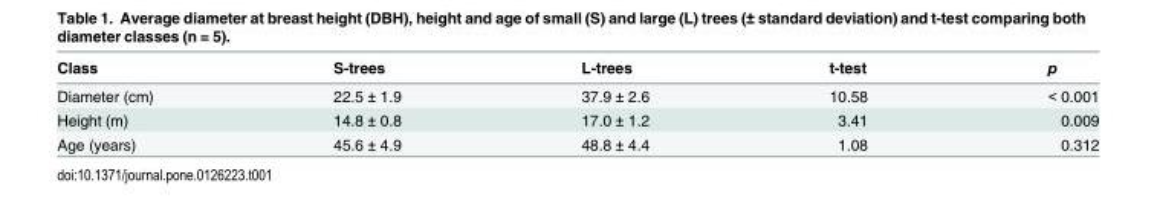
<table><thead><tr><td>Class</td><td>S-trees</td><td>L-trees</td><td>t-test</td><td>p</td></tr></thead><tbody><tr><td>Diameter (cm)</td><td>22.5 ± 1.9</td><td>37.9 ± 2.6</td><td>10.58</td><td>&lt; 0.001</td></tr><tr><td>Height (m)</td><td>14.8 ± 0.8</td><td>17.0 ± 1.2</td><td>3.41</td><td>0.009</td></tr><tr><td>Age (years)</td><td>45.6 ± 4.9</td><td>48.8 ± 4.4</td><td>1.08</td><td>0.312</td></tr></tbody></table>